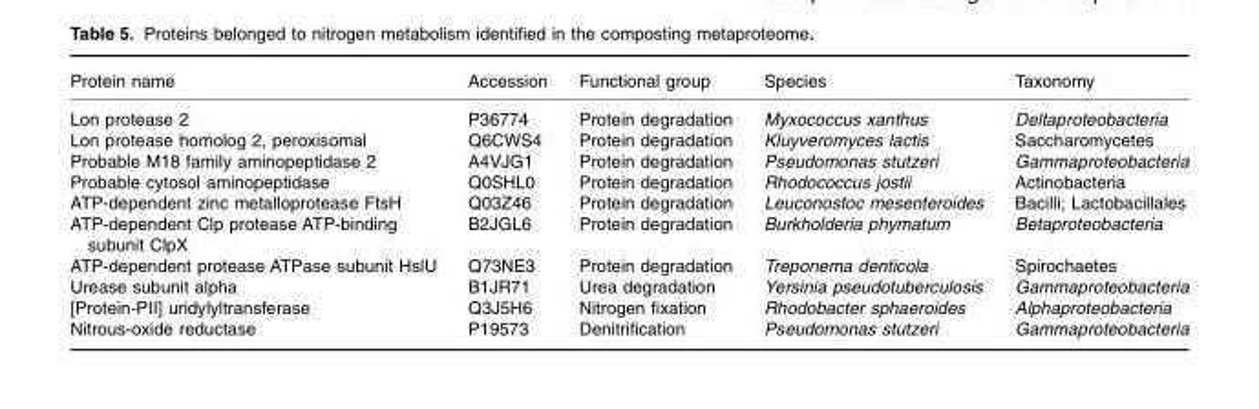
<table><thead><tr><td>Protein name</td><td>Accession</td><td>Functional group</td><td>Species</td><td>Taxonomy</td></tr></thead><tbody><tr><td>Lon protease 2</td><td>P36774</td><td>Protein degradation</td><td>Myxococcus xanthus</td><td>Deltaproteobacteria</td></tr><tr><td>Lon protease homolog 2, peroxisomal</td><td>Q6CWS4</td><td>Protein degradation</td><td>Kluyveromyces lactis</td><td>Saccharomycetes</td></tr><tr><td>Probable M18 family aminopeptidase 2</td><td>A4VJG1</td><td>Protein degradation</td><td>Pseudomonas stutzeri</td><td>Gammaproteobacteria</td></tr><tr><td>Probable cytosol aminopeptidase</td><td>Q0SHL0</td><td>Protein degradation</td><td>Rhodococcus jostii</td><td>Actinobacteria</td></tr><tr><td>ATP-dependent zinc metalloprotease FtsH</td><td>Q03Z46</td><td>Protein degradation</td><td>Leuconostoc mesenteroides</td><td>Bacilli; Lactobacillales</td></tr><tr><td>ATP-dependent Clp protease ATP-binding subunit ClpX</td><td>B2JGL6</td><td>Protein degradation</td><td>Burkholderia phymatum</td><td>Betaproteobacteria</td></tr><tr><td>ATP-dependent protease ATPase subunit HslU</td><td>Q73NE3</td><td>Protein degradation</td><td>Treponema denticola</td><td>Spirochaetes</td></tr><tr><td>Urease subunit alpha</td><td>B1JR71</td><td>Urea degradation</td><td>Yersinia pseudotuberculosis</td><td>Gammaproteobacteria</td></tr><tr><td>[Protein-PII] uridylyltransferase</td><td>Q3J5H6</td><td>Nitrogen fixation</td><td>Rhodobacter sphaeroides</td><td>Alphaproteobacteria</td></tr><tr><td>Nitrous-oxide reductase</td><td>P19573</td><td>Denitrification</td><td>Pseudomonas stutzeri</td><td>Gammaproteobacteria</td></tr></tbody></table>